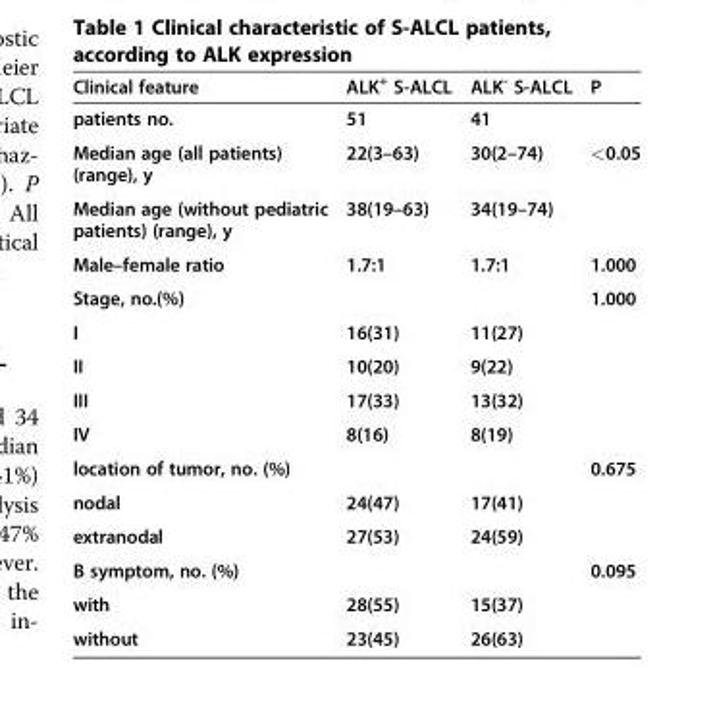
<table><thead><tr><td>Clinical feature</td><td>ALK<sup>+</sup> S-ALCL</td><td>ALK<sup>-</sup> S-ALCL</td><td>P</td></tr></thead><tbody><tr><td>patients no.</td><td>51</td><td>41</td><td></td></tr><tr><td>Median age (all patients) (range), y</td><td>22(3–63)</td><td>30(2–74)</td><td>&lt;0.05</td></tr><tr><td>Median age (without pediatric patients) (range), y</td><td>38(19–63)</td><td>34(19–74)</td><td></td></tr><tr><td>Male–female ratio</td><td>1.7:1</td><td>1.7:1</td><td>1.000</td></tr><tr><td>Stage, no.(%)</td><td></td><td></td><td>1.000</td></tr><tr><td>I</td><td>16(31)</td><td>11(27)</td><td></td></tr><tr><td>II</td><td>10(20)</td><td>9(22)</td><td></td></tr><tr><td>III</td><td>17(33)</td><td>13(32)</td><td></td></tr><tr><td>IV</td><td>8(16)</td><td>8(19)</td><td></td></tr><tr><td>location of tumor, no. (%)</td><td></td><td></td><td>0.675</td></tr><tr><td>nodal</td><td>24(47)</td><td>17(41)</td><td></td></tr><tr><td>extranodal</td><td>27(53)</td><td>24(59)</td><td></td></tr><tr><td>B symptom, no. (%)</td><td></td><td></td><td>0.095</td></tr><tr><td>with</td><td>28(55)</td><td>15(37)</td><td></td></tr><tr><td>without</td><td>23(45)</td><td>26(63)</td><td></td></tr></tbody></table>